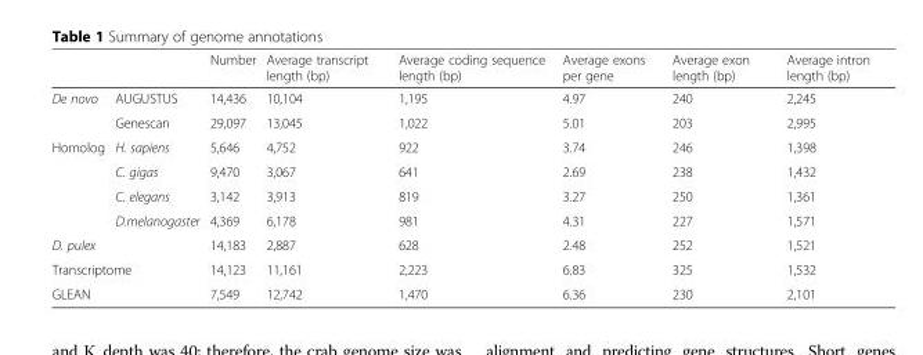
<table><thead><tr><td></td><td></td><td>Number</td><td>Average transcript length (bp)</td><td>Average coding sequence length (bp)</td><td>Average exons per gene</td><td>Average exon length (bp)</td><td>Average intron length (bp)</td></tr></thead><tbody><tr><td rowspan="2">De novo</td><td>AUGUSTUS</td><td>14,436</td><td>10,104</td><td>1,195</td><td>4.97</td><td>240</td><td>2,245</td></tr><tr><td>Genescan</td><td>29,097</td><td>13,045</td><td>1,022</td><td>5.01</td><td>203</td><td>2,995</td></tr><tr><td rowspan="4">Homolog</td><td>H. sapiens</td><td>5,646</td><td>4,752</td><td>922</td><td>3.74</td><td>246</td><td>1,398</td></tr><tr><td>C. gigas</td><td>9,470</td><td>3,067</td><td>641</td><td>2.69</td><td>238</td><td>1,432</td></tr><tr><td>C. elegans</td><td>3,142</td><td>3,913</td><td>819</td><td>3.27</td><td>250</td><td>1,361</td></tr><tr><td>D.melanogaster</td><td>4,369</td><td>6,178</td><td>981</td><td>4.31</td><td>227</td><td>1,571</td></tr><tr><td colspan="2">D. pulex</td><td>14,183</td><td>2,887</td><td>628</td><td>2.48</td><td>252</td><td>1,521</td></tr><tr><td colspan="2">Transcriptome</td><td>14,123</td><td>11,161</td><td>2,223</td><td>6.83</td><td>325</td><td>1,532</td></tr><tr><td colspan="2">GLEAN</td><td>7,549</td><td>12,742</td><td>1,470</td><td>6.36</td><td>230</td><td>2,101</td></tr></tbody></table>